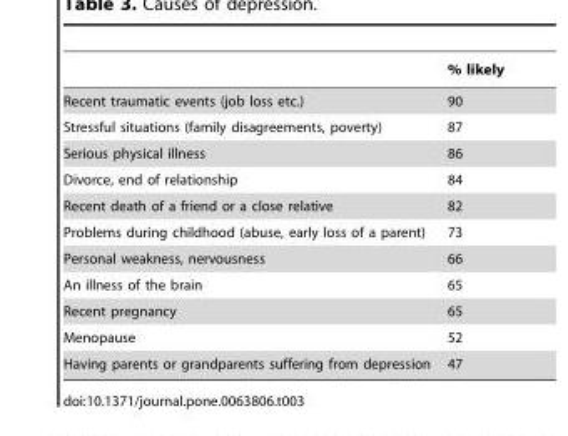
<table><thead><tr><td></td><td>% likely</td></tr></thead><tbody><tr><td>Recent traumatic events (job loss etc.)</td><td>90</td></tr><tr><td>Stressful situations (family disagreements, poverty)</td><td>87</td></tr><tr><td>Serious physical illness</td><td>86</td></tr><tr><td>Divorce, end of relationship</td><td>84</td></tr><tr><td>Recent death of a friend or a close relative</td><td>82</td></tr><tr><td>Problems during childhood (abuse, early loss of a parent)</td><td>73</td></tr><tr><td>Personal weakness, nervousness</td><td>66</td></tr><tr><td>An illness of the brain</td><td>65</td></tr><tr><td>Recent pregnancy</td><td>65</td></tr><tr><td>Menopause</td><td>52</td></tr><tr><td>Having parents or grandparents suffering from depression</td><td>47</td></tr></tbody></table>